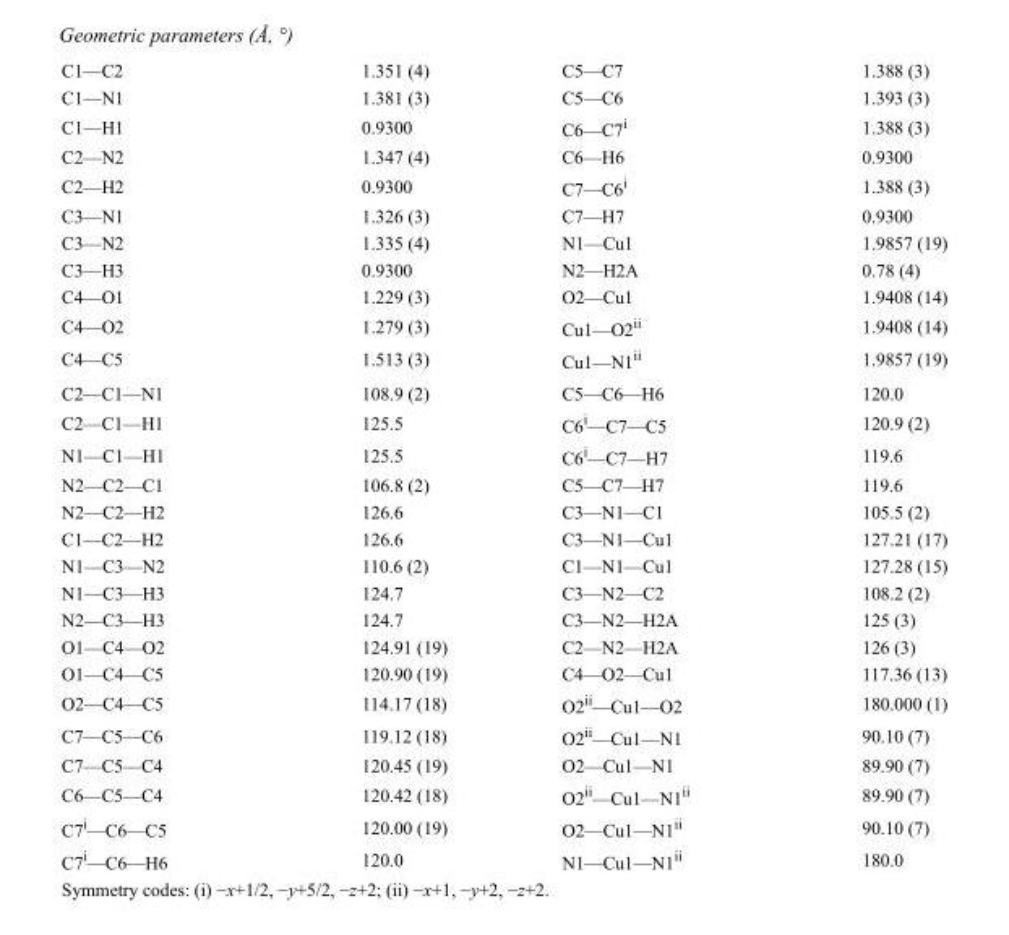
<table><tbody><tr><td>C1—C2</td><td>1.351 (4)</td><td>C5—C7</td><td>1.388 (3)</td></tr><tr><td>C1—N1</td><td>1.381 (3)</td><td>C5—C6</td><td>1.393 (3)</td></tr><tr><td>C1—H1</td><td>0.9300</td><td>C6—C7<sup>i</sup></td><td>1.388 (3)</td></tr><tr><td>C2—N2</td><td>1.347 (4)</td><td>C6—H6</td><td>0.9300</td></tr><tr><td>C2—H2</td><td>0.9300</td><td>C7—C6<sup>i</sup></td><td>1.388 (3)</td></tr><tr><td>C3—N1</td><td>1.326 (3)</td><td>C7—H7</td><td>0.9300</td></tr><tr><td>C3—N2</td><td>1.335 (4)</td><td>N1—Cu1</td><td>1.9857 (19)</td></tr><tr><td>C3—H3</td><td>0.9300</td><td>N2—H2A</td><td>0.78 (4)</td></tr><tr><td>C4—O1</td><td>1.229 (3)</td><td>O2—Cu1</td><td>1.9408 (14)</td></tr><tr><td>C4—O2</td><td>1.279 (3)</td><td>Cu1—O2<sup>ii</sup></td><td>1.9408 (14)</td></tr><tr><td>C4—C5</td><td>1.513 (3)</td><td>Cu1—N1<sup>ii</sup></td><td>1.9857 (19)</td></tr><tr><td>C2—C1—N1</td><td>108.9 (2)</td><td>C5—C6—H6</td><td>120.0</td></tr><tr><td>C2—C1—H1</td><td>125.5</td><td>C6<sup>i</sup>—C7—C5</td><td>120.9 (2)</td></tr><tr><td>N1—C1—H1</td><td>125.5</td><td>C6<sup>i</sup>—C7—H7</td><td>119.6</td></tr><tr><td>N2—C2—C1</td><td>106.8 (2)</td><td>C5—C7—H7</td><td>119.6</td></tr><tr><td>N2—C2—H2</td><td>126.6</td><td>C3—N1—C1</td><td>105.5 (2)</td></tr><tr><td>C1—C2—H2</td><td>126.6</td><td>C3—N1—Cu1</td><td>127.21 (17)</td></tr><tr><td>N1—C3—N2</td><td>110.6 (2)</td><td>C1—N1—Cu1</td><td>127.28 (15)</td></tr><tr><td>N1—C3—H3</td><td>124.7</td><td>C3—N2—C2</td><td>108.2 (2)</td></tr><tr><td>N2—C3—H3</td><td>124.7</td><td>C3—N2—H2A</td><td>125 (3)</td></tr><tr><td>O1—C4—O2</td><td>124.91 (19)</td><td>C2—N2—H2A</td><td>126 (3)</td></tr><tr><td>O1—C4—C5</td><td>120.90 (19)</td><td>C4—O2—Cu1</td><td>117.36 (13)</td></tr><tr><td>O2—C4—C5</td><td>114.17 (18)</td><td>O2<sup>ii</sup>—Cu1—O2</td><td>180.000 (1)</td></tr><tr><td>C7—C5—C6</td><td>119.12 (18)</td><td>O2<sup>ii</sup>—Cu1—N1</td><td>90.10 (7)</td></tr><tr><td>C7—C5—C4</td><td>120.45 (19)</td><td>O2—Cu1—N1</td><td>89.90 (7)</td></tr><tr><td>C6—C5—C4</td><td>120.42 (18)</td><td>O2<sup>ii</sup>—Cu1—N1<sup>ii</sup></td><td>89.90 (7)</td></tr><tr><td>C7<sup>i</sup>—C6—C5</td><td>120.00 (19)</td><td>O2—Cu1—N1<sup>ii</sup></td><td>90.10 (7)</td></tr><tr><td>C7<sup>i</sup>—C6—H6</td><td>120.0</td><td>N1—Cu1—N1<sup>ii</sup></td><td>180.0</td></tr></tbody></table>